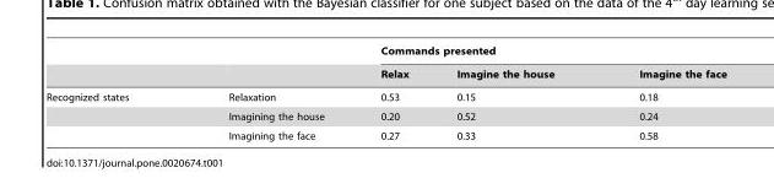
<table><thead><tr><td rowspan="2"></td><td rowspan="2"></td><td colspan="3">Commands presented</td></tr><tr><td>Relax</td><td>Imagine the house</td><td>Imagine the face</td></tr></thead><tbody><tr><td rowspan="3">Recognized states</td><td>Relaxation</td><td>0.53</td><td>0.15</td><td>0.18</td></tr><tr><td>Imagining the house</td><td>0.20</td><td>0.52</td><td>0.24</td></tr><tr><td>Imagining the face</td><td>0.27</td><td>0.33</td><td>0.58</td></tr></tbody></table>